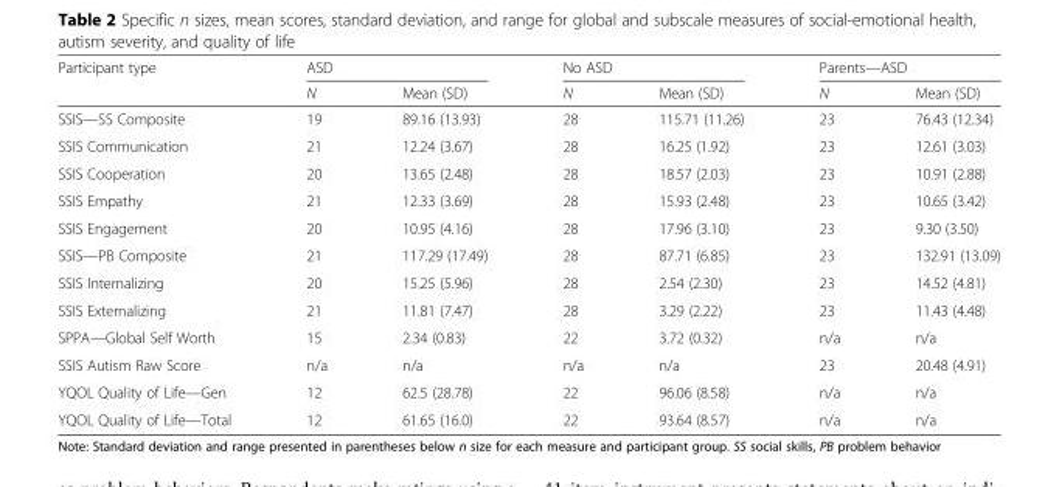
<table><thead><tr><td rowspan="2">Participant type</td><td colspan="2">ASD</td><td colspan="2">No ASD</td><td colspan="2">Parents—ASD</td></tr><tr><td>N</td><td>Mean (SD)</td><td>N</td><td>Mean (SD)</td><td>N</td><td>Mean (SD)</td></tr></thead><tbody><tr><td>SSIS—SS Composite</td><td>19</td><td>89.16 (13.93)</td><td>28</td><td>115.71 (11.26)</td><td>23</td><td>76.43 (12.34)</td></tr><tr><td>SSIS Communication</td><td>21</td><td>12.24 (3.67)</td><td>28</td><td>16.25 (1.92)</td><td>23</td><td>12.61 (3.03)</td></tr><tr><td>SSIS Cooperation</td><td>20</td><td>13.65 (2.48)</td><td>28</td><td>18.57 (2.03)</td><td>23</td><td>10.91 (2.88)</td></tr><tr><td>SSIS Empathy</td><td>21</td><td>12.33 (3.69)</td><td>28</td><td>15.93 (2.48)</td><td>23</td><td>10.65 (3.42)</td></tr><tr><td>SSIS Engagement</td><td>20</td><td>10.95 (4.16)</td><td>28</td><td>17.96 (3.10)</td><td>23</td><td>9.30 (3.50)</td></tr><tr><td>SSIS—PB Composite</td><td>21</td><td>117.29 (17.49)</td><td>28</td><td>87.71 (6.85)</td><td>23</td><td>132.91 (13.09)</td></tr><tr><td>SSIS Internalizing</td><td>20</td><td>15.25 (5.96)</td><td>28</td><td>2.54 (2.30)</td><td>23</td><td>14.52 (4.81)</td></tr><tr><td>SSIS Externalizing</td><td>21</td><td>11.81 (7.47)</td><td>28</td><td>3.29 (2.22)</td><td>23</td><td>11.43 (4.48)</td></tr><tr><td>SPPA—Global Self Worth</td><td>15</td><td>2.34 (0.83)</td><td>22</td><td>3.72 (0.32)</td><td>n/a</td><td>n/a</td></tr><tr><td>SSIS Autism Raw Score</td><td>n/a</td><td>n/a</td><td>n/a</td><td>n/a</td><td>23</td><td>20.48 (4.91)</td></tr><tr><td>YQOL Quality of Life—Gen</td><td>12</td><td>62.5 (28.78)</td><td>22</td><td>96.06 (8.58)</td><td>n/a</td><td>n/a</td></tr><tr><td>YQOL Quality of Life—Total</td><td>12</td><td>61.65 (16.0)</td><td>22</td><td>93.64 (8.57)</td><td>n/a</td><td>n/a</td></tr></tbody></table>